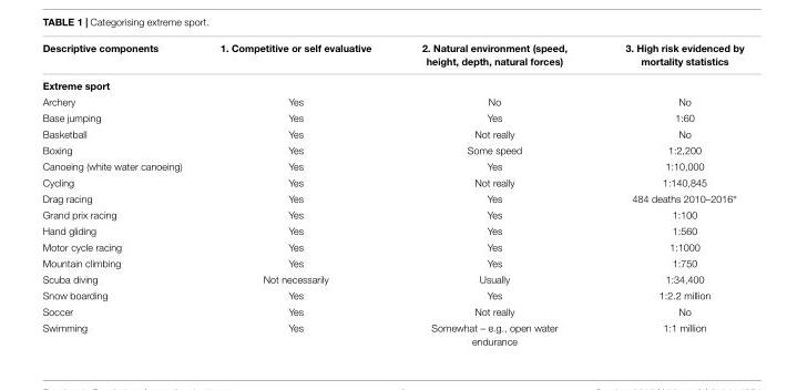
<table><thead><tr><td>Descriptive components</td><td>1. Competitive or self evaluative</td><td>2. Natural environment (speed, height, depth, natural forces)</td><td>3. High risk evidenced by mortality statistics</td></tr></thead><tbody><tr><td colspan="4">Extreme sport</td></tr><tr><td>Archery</td><td>Yes</td><td>No</td><td>No</td></tr><tr><td>Base jumping</td><td>Yes</td><td>Yes</td><td>1:60</td></tr><tr><td>Basketball</td><td>Yes</td><td>Not really</td><td>No</td></tr><tr><td>Boxing</td><td>Yes</td><td>Some speed</td><td>1:2,200</td></tr><tr><td>Canoeing (white water canoeing)</td><td>Yes</td><td>Yes</td><td>1:10,000</td></tr><tr><td>Cycling</td><td>Yes</td><td>Not really</td><td>1:140,845</td></tr><tr><td>Drag racing</td><td>Yes</td><td>Yes</td><td>484 deaths 2010–2016∗</td></tr><tr><td>Grand prix racing</td><td>Yes</td><td>Yes</td><td>1:100</td></tr><tr><td>Hand gliding</td><td>Yes</td><td>Yes</td><td>1:560</td></tr><tr><td>Motor cycle racing</td><td>Yes</td><td>Yes</td><td>1:1000</td></tr><tr><td>Mountain climbing</td><td>Yes</td><td>Yes</td><td>1:750</td></tr><tr><td>Scuba diving</td><td>Not necessarily</td><td>Usually</td><td>1:34,400</td></tr><tr><td>Snow boarding</td><td>Yes</td><td>Yes</td><td>1:2.2 million</td></tr><tr><td>Soccer</td><td>Yes</td><td>Not really</td><td>No</td></tr><tr><td>Swimming</td><td>Yes</td><td>Somewhat – e.g., open water endurance</td><td>1:1 million</td></tr></tbody></table>